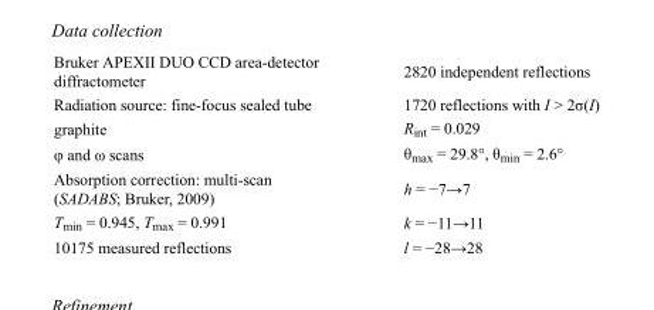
<table><tbody><tr><td>Bruker APEXII DUO CCD area-detector diffractometer</td><td>2820 independent reflections</td></tr><tr><td>Radiation source: fine-focus sealed tube</td><td>1720 reflections with I &gt; 2σ(I)</td></tr><tr><td>graphite</td><td>R<sub>int</sub> = 0.029</td></tr><tr><td>φ and ω scans</td><td>θ<sub>max</sub> = 29.8°, θ<sub>min</sub> = 2.6°</td></tr><tr><td>Absorption correction: multi-scan (SADABS; Bruker, 2009)</td><td>h = −7→7</td></tr><tr><td>T<sub>min</sub> = 0.945, T<sub>max</sub> = 0.991</td><td>k = −11→11</td></tr><tr><td>10175 measured reflections</td><td>l = −28→28</td></tr></tbody></table>